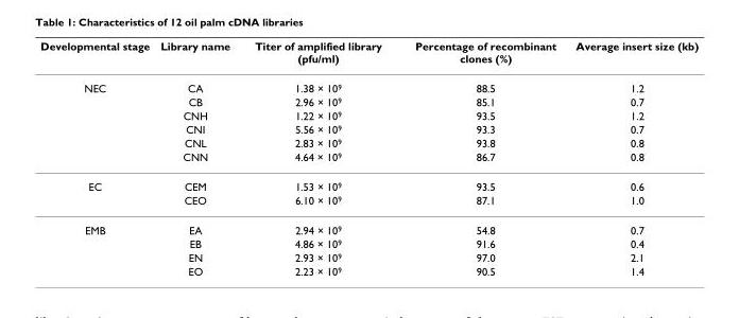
<table><thead><tr><td>Developmental stage</td><td>Library name</td><td>Titer of amplified library (pfu/ml)</td><td>Percentage of recombinant clones (%)</td><td>Average insert size (kb)</td></tr></thead><tbody><tr><td rowspan="6">NEC</td><td>CA</td><td>1.38 × 10<sup>9</sup></td><td>88.5</td><td>1.2</td></tr><tr><td>CB</td><td>2.96 × 10<sup>9</sup></td><td>85.1</td><td>0.7</td></tr><tr><td>CNH</td><td>1.22 × 10<sup>9</sup></td><td>93.5</td><td>1.2</td></tr><tr><td>CNI</td><td>5.56 × 10<sup>9</sup></td><td>93.3</td><td>0.7</td></tr><tr><td>CNL</td><td>2.83 × 10<sup>9</sup></td><td>93.8</td><td>0.8</td></tr><tr><td>CNN</td><td>4.64 × 10<sup>9</sup></td><td>86.7</td><td>0.8</td></tr><tr><td rowspan="2">EC</td><td>CEM</td><td>1.53 × 10<sup>9</sup></td><td>93.5</td><td>0.6</td></tr><tr><td>CEO</td><td>6.10 × 10<sup>9</sup></td><td>87.1</td><td>1.0</td></tr><tr><td rowspan="4">EMB</td><td>EA</td><td>2.94 × 10<sup>9</sup></td><td>54.8</td><td>0.7</td></tr><tr><td>EB</td><td>4.86 × 10<sup>9</sup></td><td>91.6</td><td>0.4</td></tr><tr><td>EN</td><td>2.93 × 10<sup>9</sup></td><td>97.0</td><td>2.1</td></tr><tr><td>EO</td><td>2.23 × 10<sup>9</sup></td><td>90.5</td><td>1.4</td></tr></tbody></table>